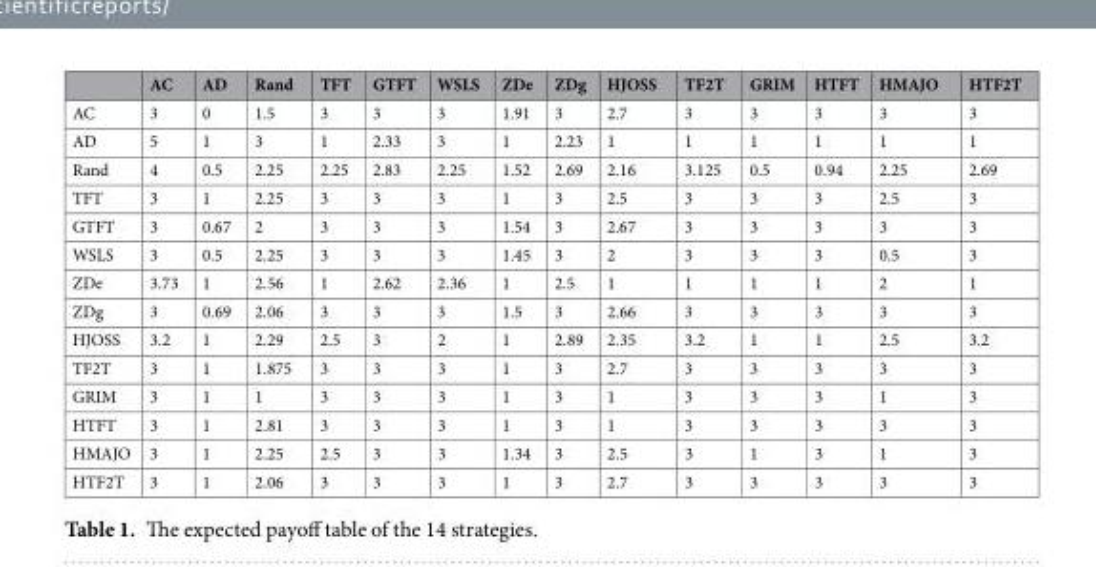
<table><thead><tr><td></td><td>AC</td><td>AD</td><td>Rand</td><td>TFT</td><td>GTFT</td><td>WSLS</td><td>ZDe</td><td>ZDg</td><td>HJOSS</td><td>TF2T</td><td>GRIM</td><td>HTFT</td><td>HMAJO</td><td>HTF2T</td></tr></thead><tbody><tr><td>AC</td><td>3</td><td>0</td><td>1.5</td><td>3</td><td>3</td><td>3</td><td>1.91</td><td>3</td><td>2.7</td><td>3</td><td>3</td><td>3</td><td>3</td><td>3</td></tr><tr><td>AD</td><td>5</td><td>1</td><td>3</td><td>1</td><td>2.33</td><td>3</td><td>1</td><td>2.23</td><td>1</td><td>1</td><td>1</td><td>1</td><td>1</td><td>1</td></tr><tr><td>Rand</td><td>4</td><td>0.5</td><td>2.25</td><td>2.25</td><td>2.83</td><td>2.25</td><td>1.52</td><td>2.69</td><td>2.16</td><td>3.125</td><td>0.5</td><td>0.94</td><td>2.25</td><td>2.69</td></tr><tr><td>TFT</td><td>3</td><td>1</td><td>2.25</td><td>3</td><td>3</td><td>3</td><td>1</td><td>3</td><td>2.5</td><td>3</td><td>3</td><td>3</td><td>2.5</td><td>3</td></tr><tr><td>GTFT</td><td>3</td><td>0.67</td><td>2</td><td>3</td><td>3</td><td>3</td><td>1.54</td><td>3</td><td>2.67</td><td>3</td><td>3</td><td>3</td><td>3</td><td>3</td></tr><tr><td>WSLS</td><td>3</td><td>0.5</td><td>2.25</td><td>3</td><td>3</td><td>3</td><td>1.45</td><td>3</td><td>2</td><td>3</td><td>3</td><td>3</td><td>0.5</td><td>3</td></tr><tr><td>ZDe</td><td>3.73</td><td>1</td><td>2.56</td><td>1</td><td>2.62</td><td>2.36</td><td>1</td><td>2.5</td><td>1</td><td>1</td><td>1</td><td>1</td><td>2</td><td>1</td></tr><tr><td>ZDg</td><td>3</td><td>0.69</td><td>2.06</td><td>3</td><td>3</td><td>3</td><td>1.5</td><td>3</td><td>2.66</td><td>3</td><td>3</td><td>3</td><td>3</td><td>3</td></tr><tr><td>HJOSS</td><td>3.2</td><td>1</td><td>2.29</td><td>2.5</td><td>3</td><td>2</td><td>1</td><td>2.89</td><td>2.35</td><td>3.2</td><td>1</td><td>1</td><td>2.5</td><td>3.2</td></tr><tr><td>TF2T</td><td>3</td><td>1</td><td>1.875</td><td>3</td><td>3</td><td>3</td><td>1</td><td>3</td><td>2.7</td><td>3</td><td>3</td><td>3</td><td>3</td><td>3</td></tr><tr><td>GRIM</td><td>3</td><td>1</td><td>1</td><td>3</td><td>3</td><td>3</td><td>1</td><td>3</td><td>1</td><td>3</td><td>3</td><td>3</td><td>1</td><td>3</td></tr><tr><td>HTFT</td><td>3</td><td>1</td><td>2.81</td><td>3</td><td>3</td><td>3</td><td>1</td><td>3</td><td>1</td><td>3</td><td>3</td><td>3</td><td>3</td><td>3</td></tr><tr><td>HMAJO</td><td>3</td><td>1</td><td>2.25</td><td>2.5</td><td>3</td><td>3</td><td>1.34</td><td>3</td><td>2.5</td><td>3</td><td>1</td><td>3</td><td>1</td><td>3</td></tr><tr><td>HTF2T</td><td>3</td><td>1</td><td>2.06</td><td>3</td><td>3</td><td>3</td><td>1</td><td>3</td><td>2.7</td><td>3</td><td>3</td><td>3</td><td>3</td><td>3</td></tr></tbody></table>